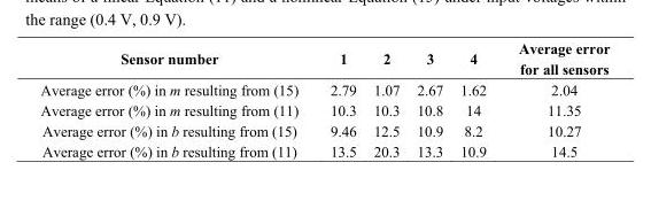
<table><thead><tr><td>Sensor number</td><td>1</td><td>2</td><td>3</td><td>4</td><td>Average error for all sensors</td></tr></thead><tbody><tr><td>Average error (%) in m resulting from (15)</td><td>2.79</td><td>1.07</td><td>2.67</td><td>1.62</td><td>2.04</td></tr><tr><td>Average error (%) in m resulting from (11)</td><td>10.3</td><td>10.3</td><td>10.8</td><td>14</td><td>11.35</td></tr><tr><td>Average error (%) in b resulting from (15)</td><td>9.46</td><td>12.5</td><td>10.9</td><td>8.2</td><td>10.27</td></tr><tr><td>Average error (%) in b resulting from (11)</td><td>13.5</td><td>20.3</td><td>13.3</td><td>10.9</td><td>14.5</td></tr></tbody></table>